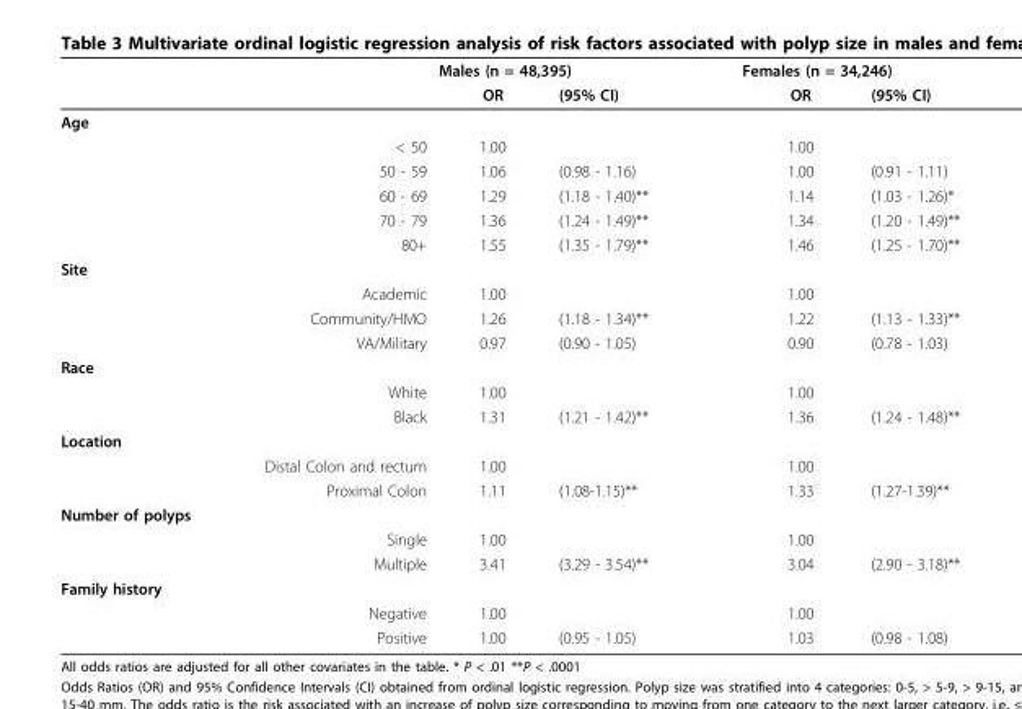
<table><thead><tr><td rowspan="2"></td><td rowspan="2"></td><td colspan="2">Males (n = 48,395)</td><td colspan="2">Females (n = 34,246)</td></tr><tr><td>OR</td><td>(95% CI)</td><td>OR</td><td>(95% CI)</td></tr></thead><tbody><tr><td colspan="6">Age</td></tr><tr><td></td><td>&lt; 50</td><td>1.00</td><td></td><td>1.00</td><td></td></tr><tr><td></td><td>50 - 59</td><td>1.06</td><td>(0.98 - 1.16)</td><td>1.00</td><td>(0.91 - 1.11)</td></tr><tr><td></td><td>60 - 69</td><td>1.29</td><td>(1.18 - 1.40)**</td><td>1.14</td><td>(1.03 - 1.26)*</td></tr><tr><td></td><td>70 - 79</td><td>1.36</td><td>(1.24 - 1.49)**</td><td>1.34</td><td>(1.20 - 1.49)**</td></tr><tr><td></td><td>80+</td><td>1.55</td><td>(1.35 - 1.79)**</td><td>1.46</td><td>(1.25 - 1.70)**</td></tr><tr><td colspan="6">Site</td></tr><tr><td></td><td>Academic</td><td>1.00</td><td></td><td>1.00</td><td></td></tr><tr><td></td><td>Community/HMO</td><td>1.26</td><td>(1.18 - 1.34)**</td><td>1.22</td><td>(1.13 - 1.33)**</td></tr><tr><td></td><td>VA/Military</td><td>0.97</td><td>(0.90 - 1.05)</td><td>0.90</td><td>(0.78 - 1.03)</td></tr><tr><td colspan="6">Race</td></tr><tr><td></td><td>White</td><td>1.00</td><td></td><td>1.00</td><td></td></tr><tr><td></td><td>Black</td><td>1.31</td><td>(1.21 - 1.42)**</td><td>1.36</td><td>(1.24 - 1.48)**</td></tr><tr><td colspan="6">Location</td></tr><tr><td></td><td>Distal Colon and rectum</td><td>1.00</td><td></td><td>1.00</td><td></td></tr><tr><td></td><td>Proximal Colon</td><td>1.11</td><td>(1.08-1.15)**</td><td>1.33</td><td>(1.27-1.39)**</td></tr><tr><td colspan="6">Number of polyps</td></tr><tr><td></td><td>Single</td><td>1.00</td><td></td><td>1.00</td><td></td></tr><tr><td></td><td>Multiple</td><td>3.41</td><td>(3.29 - 3.54)**</td><td>3.04</td><td>(2.90 - 3.18)**</td></tr><tr><td colspan="6">Family history</td></tr><tr><td></td><td>Negative</td><td>1.00</td><td></td><td>1.00</td><td></td></tr><tr><td></td><td>Positive</td><td>1.00</td><td>(0.95 - 1.05)</td><td>1.03</td><td>(0.98 - 1.08)</td></tr></tbody></table>